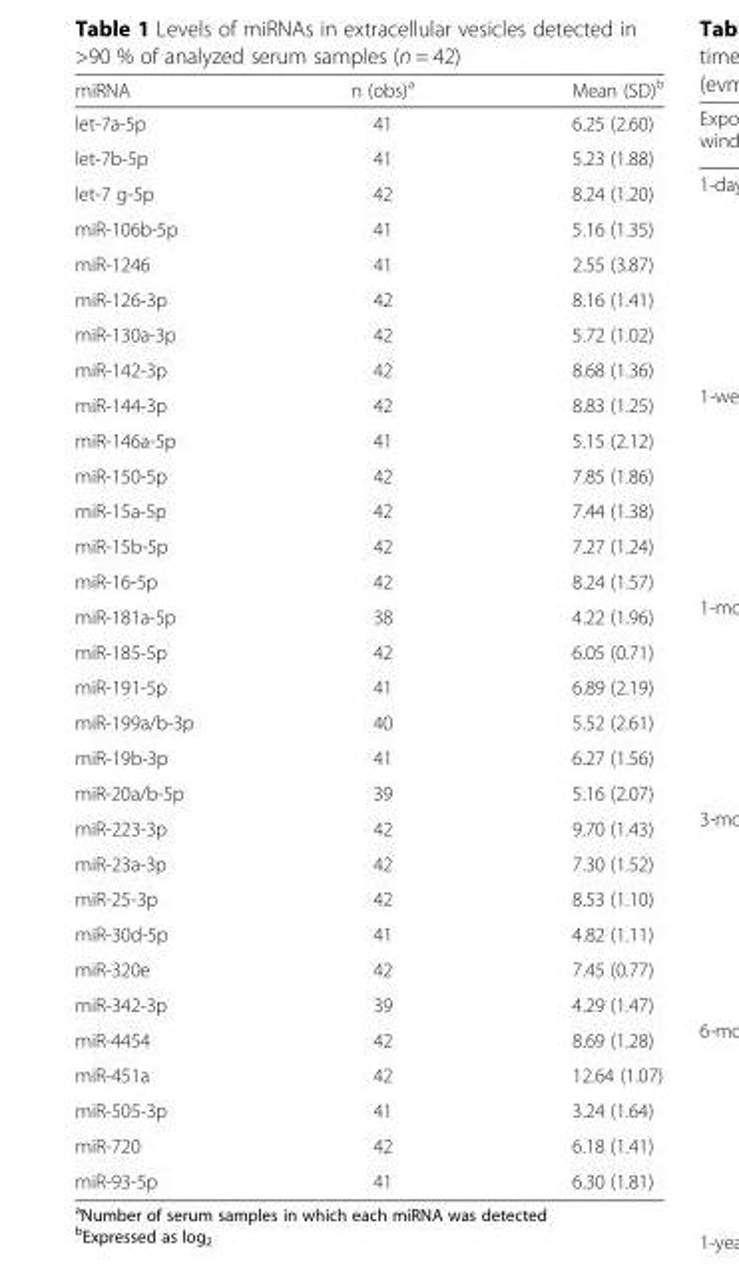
<table><thead><tr><td>miRNA</td><td>n (obs)<sup>a</sup></td><td>Mean (SD)<sup>b</sup></td></tr></thead><tbody><tr><td>let-7a-5p</td><td>41</td><td>6.25 (2.60)</td></tr><tr><td>let-7b-5p</td><td>41</td><td>5.23 (1.88)</td></tr><tr><td>let-7 g-5p</td><td>42</td><td>8.24 (1.20)</td></tr><tr><td>miR-106b-5p</td><td>41</td><td>5.16 (1.35)</td></tr><tr><td>miR-1246</td><td>41</td><td>2.55 (3.87)</td></tr><tr><td>miR-126-3p</td><td>42</td><td>8.16 (1.41)</td></tr><tr><td>miR-130a-3p</td><td>42</td><td>5.72 (1.02)</td></tr><tr><td>miR-142-3p</td><td>42</td><td>8.68 (1.36)</td></tr><tr><td>miR-144-3p</td><td>42</td><td>8.83 (1.25)</td></tr><tr><td>miR-146a-5p</td><td>41</td><td>5.15 (2.12)</td></tr><tr><td>miR-150-5p</td><td>42</td><td>7.85 (1.86)</td></tr><tr><td>miR-15a-5p</td><td>42</td><td>7.44 (1.38)</td></tr><tr><td>miR-15b-5p</td><td>42</td><td>7.27 (1.24)</td></tr><tr><td>miR-16-5p</td><td>42</td><td>8.24 (1.57)</td></tr><tr><td>miR-181a-5p</td><td>38</td><td>4.22 (1.96)</td></tr><tr><td>miR-185-5p</td><td>42</td><td>6.05 (0.71)</td></tr><tr><td>miR-191-5p</td><td>41</td><td>6.89 (2.19)</td></tr><tr><td>miR-199a/b-3p</td><td>40</td><td>5.52 (2.61)</td></tr><tr><td>miR-19b-3p</td><td>41</td><td>6.27 (1.56)</td></tr><tr><td>miR-20a/b-5p</td><td>39</td><td>5.16 (2.07)</td></tr><tr><td>miR-223-3p</td><td>42</td><td>9.70 (1.43)</td></tr><tr><td>miR-23a-3p</td><td>42</td><td>7.30 (1.52)</td></tr><tr><td>miR-25-3p</td><td>42</td><td>8.53 (1.10)</td></tr><tr><td>miR-30d-5p</td><td>41</td><td>4.82 (1.11)</td></tr><tr><td>miR-320e</td><td>42</td><td>7.45 (0.77)</td></tr><tr><td>miR-342-3p</td><td>39</td><td>4.29 (1.47)</td></tr><tr><td>miR-4454</td><td>42</td><td>8.69 (1.28)</td></tr><tr><td>miR-451a</td><td>42</td><td>12.64 (1.07)</td></tr><tr><td>miR-505-3p</td><td>41</td><td>3.24 (1.64)</td></tr><tr><td>miR-720</td><td>42</td><td>6.18 (1.41)</td></tr><tr><td>miR-93-5p</td><td>41</td><td>6.30 (1.81)</td></tr></tbody></table>